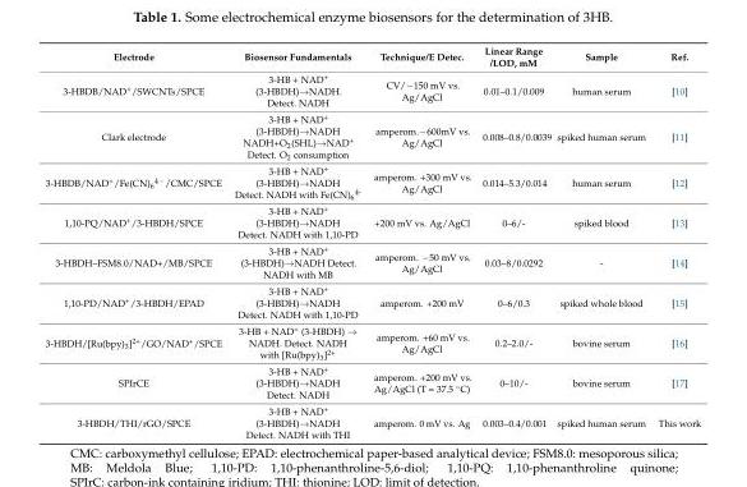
<table><thead><tr><td>Electrode</td><td>Biosensor Fundamentals</td><td>Technique/E Detec.</td><td>Linear Range /LOD, mM</td><td>Sample</td><td>Ref.</td></tr></thead><tbody><tr><td>3-HBDB/NAD<sup>+</sup>/SWCNTs/SPCE</td><td>3-HB + NAD<sup>+</sup> (3-HBDH)→NADH. Detect. NADH</td><td>CV/−150 mV vs. Ag/AgCl</td><td>0.01–0.1/0.009</td><td>human serum</td><td>[10]</td></tr><tr><td>Clark electrode</td><td>3-HB + NAD<sup>+</sup> (3-HBDH)→NADH NADH+O<sub>2</sub>(SHL)→NAD<sup>+</sup> Detect. O<sub>2</sub> consumption</td><td>amperom.−600mV vs. Ag/AgCl</td><td>0.008–0.8/0.0039</td><td>spiked human serum</td><td>[11]</td></tr><tr><td>3-HBDB/NAD<sup>+</sup>/Fe(CN)<sub>6</sub><sup>4−</sup>/CMC/SPCE</td><td>3-HB + NAD<sup>+</sup> (3-HBDH)→NADH Detect. NADH with Fe(CN)<sub>6</sub><sup>4-</sup></td><td>amperom. +300 mV vs. Ag/AgCl</td><td>0.014–5.3/0.014</td><td>human serum</td><td>[12]</td></tr><tr><td>1,10-PQ/NAD<sup>+</sup>/3-HBDH/SPCE</td><td>3-HB + NAD<sup>+</sup> (3-HBDH)→NADH Detect. NADH with 1,10-PD</td><td>+200 mV vs. Ag/AgCl</td><td>0–6/-</td><td>spiked blood</td><td>[13]</td></tr><tr><td>3-HBDH–FSM8.0/NAD+/MB/SPCE</td><td>3-HB + NAD<sup>+</sup> (3-HBDH)→NADH Detect. NADH with MB</td><td>amperom. −50 mV vs. Ag/AgCl</td><td>0.03–8/0.0292</td><td>-</td><td>[14]</td></tr><tr><td>1,10-PD/NAD<sup>+</sup>/3-HBDH/EPAD</td><td>3-HB + NAD<sup>+</sup> (3-HBDH)→NADH Detect. NADH with 1,10-PD</td><td>amperom. +200 mV</td><td>0–6/0.3</td><td>spiked whole blood</td><td>[15]</td></tr><tr><td>3-HBDH/[Ru(bpy)<sub>3</sub>]<sup>2+</sup>/GO/NAD<sup>+</sup>/SPCE</td><td>3-HB + NAD<sup>+</sup> (3-HBDH) → NADH. Detect. NADH with [Ru(bpy)<sub>3</sub>]<sup>2+</sup></td><td>amperom. +60 mV vs. Ag/AgCl</td><td>0.2–2.0/-</td><td>bovine serum</td><td>[16]</td></tr><tr><td>SPIrCE</td><td>3-HB + NAD<sup>+</sup> (3-HBDH)→NADH Detect. NADH</td><td>amperom. +200 mV vs. Ag/AgCl (T = 37.5 ◦C)</td><td>0–10/-</td><td>bovine serum</td><td>[17]</td></tr><tr><td>3-HBDH/THI/rGO/SPCE</td><td>3-HB + NAD<sup>+</sup> (3-HBDH)→NADH Detect. NADH with THI</td><td>amperom. 0 mV vs. Ag</td><td>0.003–0.4/0.001</td><td>spiked human serum</td><td>This work</td></tr></tbody></table>